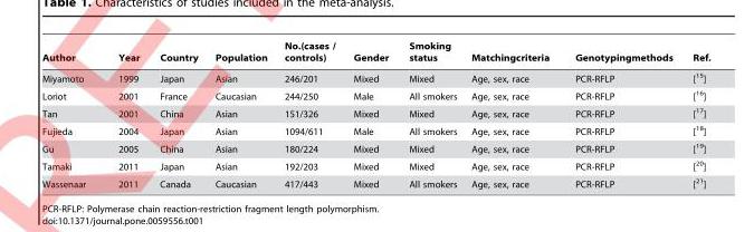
<table><thead><tr><td>Author</td><td>Year</td><td>Country</td><td>Population</td><td>No.(cases / controls)</td><td>Gender</td><td>Smoking status</td><td>Matchingcriteria</td><td>Genotypingmethods</td><td>Ref.</td></tr></thead><tbody><tr><td>Miyamoto</td><td>1999</td><td>Japan</td><td>Asian</td><td>246/201</td><td>Mixed</td><td>Mixed</td><td>Age, sex, race</td><td>PCR-RFLP</td><td>[15]</td></tr><tr><td>Loriot</td><td>2001</td><td>France</td><td>Caucasian</td><td>244/250</td><td>Male</td><td>All smokers</td><td>Age, sex, race</td><td>PCR-RFLP</td><td>[16]</td></tr><tr><td>Tan</td><td>2001</td><td>China</td><td>Asian</td><td>151/326</td><td>Mixed</td><td>Mixed</td><td>Age, sex, race</td><td>PCR-RFLP</td><td>[17]</td></tr><tr><td>Fujieda</td><td>2004</td><td>Japan</td><td>Asian</td><td>1094/611</td><td>Male</td><td>All smokers</td><td>Age, sex, race</td><td>PCR-RFLP</td><td>[18]</td></tr><tr><td>Gu</td><td>2005</td><td>China</td><td>Asian</td><td>180/224</td><td>Mixed</td><td>Mixed</td><td>Age, sex, race</td><td>PCR-RFLP</td><td>[19]</td></tr><tr><td>Tamaki</td><td>2011</td><td>Japan</td><td>Asian</td><td>192/203</td><td>Mixed</td><td>Mixed</td><td>Age, sex, race</td><td>PCR-RFLP</td><td>[20]</td></tr><tr><td>Wassenaar</td><td>2011</td><td>Canada</td><td>Caucasian</td><td>417/443</td><td>Mixed</td><td>All smokers</td><td>Age, sex, race</td><td>PCR-RFLP</td><td>[21]</td></tr></tbody></table>